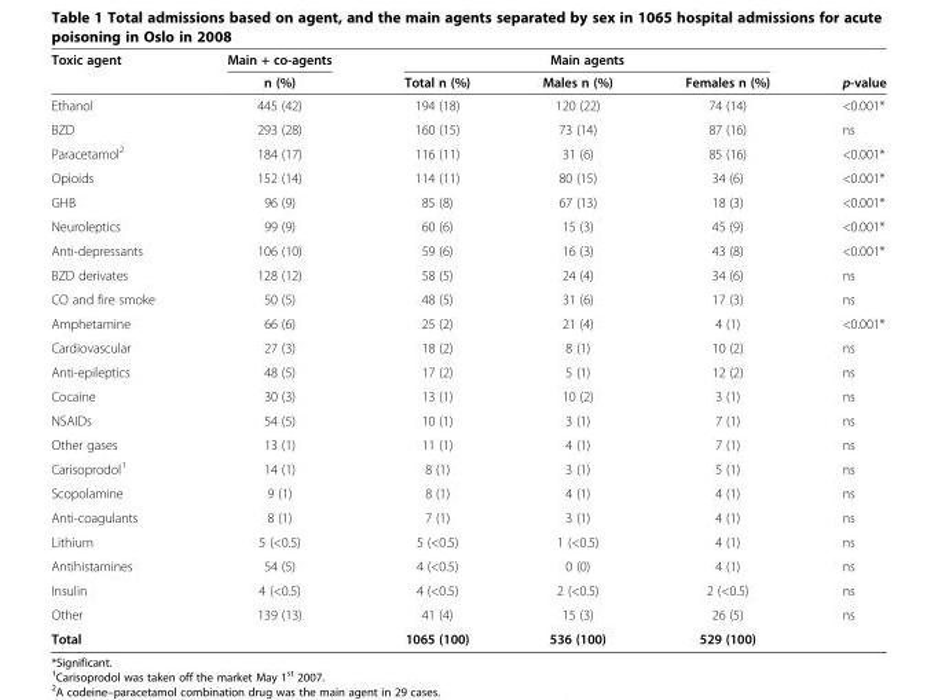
<table><thead><tr><td rowspan="2">Toxic agent</td><td rowspan="2">Main + co-agents n (%)</td><td colspan="3">Main agents</td><td rowspan="2">p-value</td></tr><tr><td>Total n (%)</td><td>Males n (%)</td><td>Females n (%)</td></tr></thead><tbody><tr><td>Ethanol</td><td>445 (42)</td><td>194 (18)</td><td>120 (22)</td><td>74 (14)</td><td>&lt;0.001*</td></tr><tr><td>BZD</td><td>293 (28)</td><td>160 (15)</td><td>73 (14)</td><td>87 (16)</td><td>ns</td></tr><tr><td>Paracetamol<sup>2</sup></td><td>184 (17)</td><td>116 (11)</td><td>31 (6)</td><td>85 (16)</td><td>&lt;0.001*</td></tr><tr><td>Opioids</td><td>152 (14)</td><td>114 (11)</td><td>80 (15)</td><td>34 (6)</td><td>&lt;0.001*</td></tr><tr><td>GHB</td><td>96 (9)</td><td>85 (8)</td><td>67 (13)</td><td>18 (3)</td><td>&lt;0.001*</td></tr><tr><td>Neuroleptics</td><td>99 (9)</td><td>60 (6)</td><td>15 (3)</td><td>45 (9)</td><td>&lt;0.001*</td></tr><tr><td>Anti-depressants</td><td>106 (10)</td><td>59 (6)</td><td>16 (3)</td><td>43 (8)</td><td>&lt;0.001*</td></tr><tr><td>BZD derivates</td><td>128 (12)</td><td>58 (5)</td><td>24 (4)</td><td>34 (6)</td><td>ns</td></tr><tr><td>CO and fire smoke</td><td>50 (5)</td><td>48 (5)</td><td>31 (6)</td><td>17 (3)</td><td>ns</td></tr><tr><td>Amphetamine</td><td>66 (6)</td><td>25 (2)</td><td>21 (4)</td><td>4 (1)</td><td>&lt;0.001*</td></tr><tr><td>Cardiovascular</td><td>27 (3)</td><td>18 (2)</td><td>8 (1)</td><td>10 (2)</td><td>ns</td></tr><tr><td>Anti-epileptics</td><td>48 (5)</td><td>17 (2)</td><td>5 (1)</td><td>12 (2)</td><td>ns</td></tr><tr><td>Cocaine</td><td>30 (3)</td><td>13 (1)</td><td>10 (2)</td><td>3 (1)</td><td>ns</td></tr><tr><td>NSAIDs</td><td>54 (5)</td><td>10 (1)</td><td>3 (1)</td><td>7 (1)</td><td>ns</td></tr><tr><td>Other gases</td><td>13 (1)</td><td>11 (1)</td><td>4 (1)</td><td>7 (1)</td><td>ns</td></tr><tr><td>Carisoprodol<sup>1</sup></td><td>14 (1)</td><td>8 (1)</td><td>3 (1)</td><td>5 (1)</td><td>ns</td></tr><tr><td>Scopolamine</td><td>9 (1)</td><td>8 (1)</td><td>4 (1)</td><td>4 (1)</td><td>ns</td></tr><tr><td>Anti-coagulants</td><td>8 (1)</td><td>7 (1)</td><td>3 (1)</td><td>4 (1)</td><td>ns</td></tr><tr><td>Lithium</td><td>5 (&lt;0.5)</td><td>5 (&lt;0.5)</td><td>1 (&lt;0.5)</td><td>4 (1)</td><td>ns</td></tr><tr><td>Antihistamines</td><td>54 (5)</td><td>4 (&lt;0.5)</td><td>0 (0)</td><td>4 (1)</td><td>ns</td></tr><tr><td>Insulin</td><td>4 (&lt;0.5)</td><td>4 (&lt;0.5)</td><td>2 (&lt;0.5)</td><td>2 (&lt;0.5)</td><td>ns</td></tr><tr><td>Other</td><td>139 (13)</td><td>41 (4)</td><td>15 (3)</td><td>26 (5)</td><td>ns</td></tr><tr><td>Total</td><td></td><td>1065 (100)</td><td>536 (100)</td><td>529 (100)</td><td></td></tr></tbody></table>